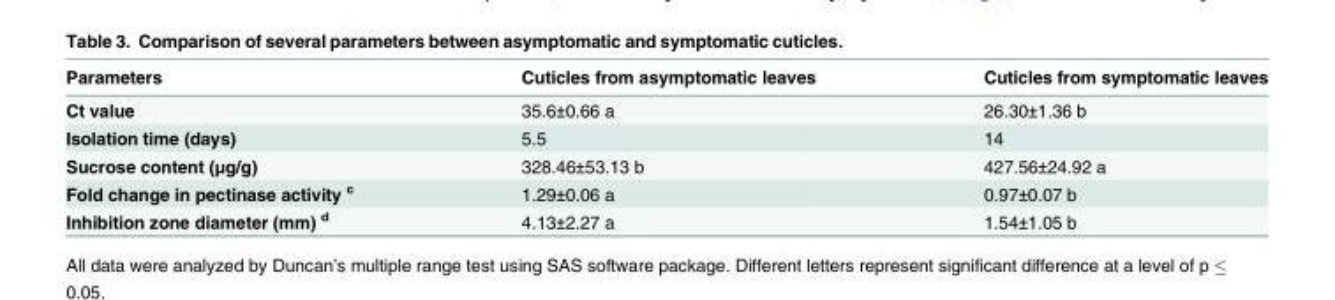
<table><thead><tr><td>Parameters</td><td>Cuticles from asymptomatic leaves</td><td>Cuticles from symptomatic leaves</td></tr></thead><tbody><tr><td>Ct value</td><td>35.6±0.66 a</td><td>26.30±1.36 b</td></tr><tr><td>Isolation time (days)</td><td>5.5</td><td>14</td></tr><tr><td>Sucrose content (μg/g)</td><td>328.46±53.13 b</td><td>427.56±24.92 a</td></tr><tr><td>Fold change in pectinase activity <sup>c</sup></td><td>1.29±0.06 a</td><td>0.97±0.07 b</td></tr><tr><td>Inhibition zone diameter (mm) <sup>d</sup></td><td>4.13±2.27 a</td><td>1.54±1.05 b</td></tr></tbody></table>